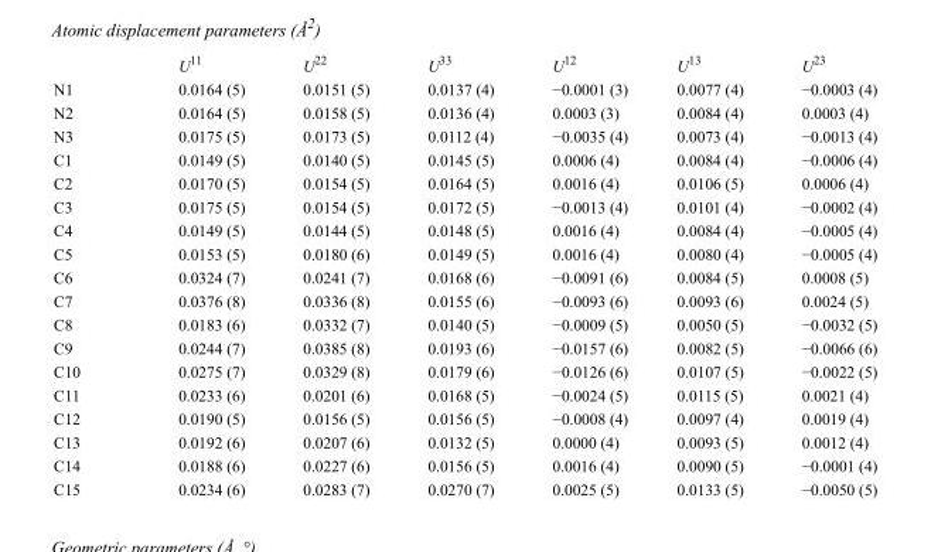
<table><thead><tr><td></td><td>U<sup>11</sup></td><td>U<sup>22</sup></td><td>U<sup>33</sup></td><td>U<sup>12</sup></td><td>U<sup>13</sup></td><td>U<sup>23</sup></td></tr></thead><tbody><tr><td>N1</td><td>0.0164 (5)</td><td>0.0151 (5)</td><td>0.0137 (4)</td><td>−0.0001 (3)</td><td>0.0077 (4)</td><td>−0.0003 (4)</td></tr><tr><td>N2</td><td>0.0164 (5)</td><td>0.0158 (5)</td><td>0.0136 (4)</td><td>0.0003 (3)</td><td>0.0084 (4)</td><td>0.0003 (4)</td></tr><tr><td>N3</td><td>0.0175 (5)</td><td>0.0173 (5)</td><td>0.0112 (4)</td><td>−0.0035 (4)</td><td>0.0073 (4)</td><td>−0.0013 (4)</td></tr><tr><td>C1</td><td>0.0149 (5)</td><td>0.0140 (5)</td><td>0.0145 (5)</td><td>0.0006 (4)</td><td>0.0084 (4)</td><td>−0.0006 (4)</td></tr><tr><td>C2</td><td>0.0170 (5)</td><td>0.0154 (5)</td><td>0.0164 (5)</td><td>0.0016 (4)</td><td>0.0106 (5)</td><td>0.0006 (4)</td></tr><tr><td>C3</td><td>0.0175 (5)</td><td>0.0154 (5)</td><td>0.0172 (5)</td><td>−0.0013 (4)</td><td>0.0101 (4)</td><td>−0.0002 (4)</td></tr><tr><td>C4</td><td>0.0149 (5)</td><td>0.0144 (5)</td><td>0.0148 (5)</td><td>0.0016 (4)</td><td>0.0084 (4)</td><td>−0.0005 (4)</td></tr><tr><td>C5</td><td>0.0153 (5)</td><td>0.0180 (6)</td><td>0.0149 (5)</td><td>0.0016 (4)</td><td>0.0080 (4)</td><td>−0.0005 (4)</td></tr><tr><td>C6</td><td>0.0324 (7)</td><td>0.0241 (7)</td><td>0.0168 (6)</td><td>−0.0091 (6)</td><td>0.0084 (5)</td><td>0.0008 (5)</td></tr><tr><td>C7</td><td>0.0376 (8)</td><td>0.0336 (8)</td><td>0.0155 (6)</td><td>−0.0093 (6)</td><td>0.0093 (6)</td><td>0.0024 (5)</td></tr><tr><td>C8</td><td>0.0183 (6)</td><td>0.0332 (7)</td><td>0.0140 (5)</td><td>−0.0009 (5)</td><td>0.0050 (5)</td><td>−0.0032 (5)</td></tr><tr><td>C9</td><td>0.0244 (7)</td><td>0.0385 (8)</td><td>0.0193 (6)</td><td>−0.0157 (6)</td><td>0.0082 (5)</td><td>−0.0066 (6)</td></tr><tr><td>C10</td><td>0.0275 (7)</td><td>0.0329 (8)</td><td>0.0179 (6)</td><td>−0.0126 (6)</td><td>0.0107 (5)</td><td>−0.0022 (5)</td></tr><tr><td>C11</td><td>0.0233 (6)</td><td>0.0201 (6)</td><td>0.0168 (5)</td><td>−0.0024 (5)</td><td>0.0115 (5)</td><td>0.0021 (4)</td></tr><tr><td>C12</td><td>0.0190 (5)</td><td>0.0156 (5)</td><td>0.0156 (5)</td><td>−0.0008 (4)</td><td>0.0097 (4)</td><td>0.0019 (4)</td></tr><tr><td>C13</td><td>0.0192 (6)</td><td>0.0207 (6)</td><td>0.0132 (5)</td><td>0.0000 (4)</td><td>0.0093 (5)</td><td>0.0012 (4)</td></tr><tr><td>C14</td><td>0.0188 (6)</td><td>0.0227 (6)</td><td>0.0156 (5)</td><td>0.0016 (4)</td><td>0.0090 (5)</td><td>−0.0001 (4)</td></tr><tr><td>C15</td><td>0.0234 (6)</td><td>0.0283 (7)</td><td>0.0270 (7)</td><td>0.0025 (5)</td><td>0.0133 (5)</td><td>−0.0050 (5)</td></tr></tbody></table>